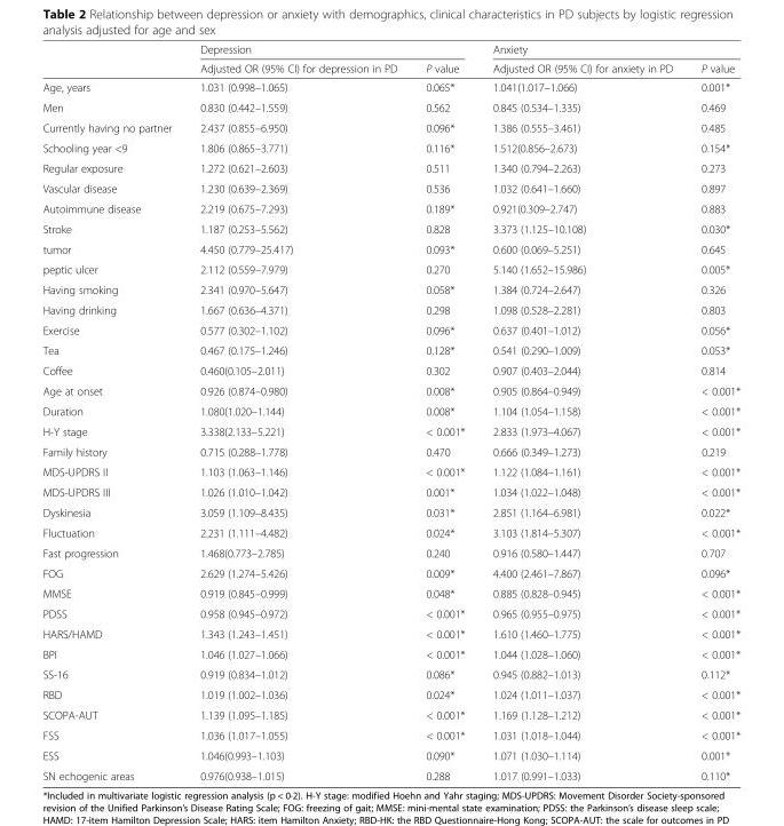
<table><thead><tr><td rowspan="2"></td><td colspan="2">Depression</td><td colspan="2">Anxiety</td></tr><tr><td>Adjusted OR (95% CI) for depression in PD</td><td>P value</td><td>Adjusted OR (95% CI) for anxiety in PD</td><td>P value</td></tr></thead><tbody><tr><td>Age, years</td><td>1.031 (0.998–1.065)</td><td>0.065*</td><td>1.041(1.017–1.066)</td><td>0.001*</td></tr><tr><td>Men</td><td>0.830 (0.442–1.559)</td><td>0.562</td><td>0.845 (0.534–1.335)</td><td>0.469</td></tr><tr><td>Currently having no partner</td><td>2.437 (0.855–6.950)</td><td>0.096*</td><td>1.386 (0.555–3.461)</td><td>0.485</td></tr><tr><td>Schooling year &lt;9</td><td>1.806 (0.865–3.771)</td><td>0.116*</td><td>1.512(0.856–2.673)</td><td>0.154*</td></tr><tr><td>Regular exposure</td><td>1.272 (0.621–2.603)</td><td>0.511</td><td>1.340 (0.794–2.263)</td><td>0.273</td></tr><tr><td>Vascular disease</td><td>1.230 (0.639–2.369)</td><td>0.536</td><td>1.032 (0.641–1.660)</td><td>0.897</td></tr><tr><td>Autoimmune disease</td><td>2.219 (0.675–7.293)</td><td>0.189*</td><td>0.921(0.309–2.747)</td><td>0.883</td></tr><tr><td>Stroke</td><td>1.187 (0.253–5.562)</td><td>0.828</td><td>3.373 (1.125–10.108)</td><td>0.030*</td></tr><tr><td>tumor</td><td>4.450 (0.779–25.417)</td><td>0.093*</td><td>0.600 (0.069–5.251)</td><td>0.645</td></tr><tr><td>peptic ulcer</td><td>2.112 (0.559–7.979)</td><td>0.270</td><td>5.140 (1.652–15.986)</td><td>0.005*</td></tr><tr><td>Having smoking</td><td>2.341 (0.970–5.647)</td><td>0.058*</td><td>1.384 (0.724–2.647)</td><td>0.326</td></tr><tr><td>Having drinking</td><td>1.667 (0.636–4.371)</td><td>0.298</td><td>1.098 (0.528–2.281)</td><td>0.803</td></tr><tr><td>Exercise</td><td>0.577 (0.302–1.102)</td><td>0.096*</td><td>0.637 (0.401–1.012)</td><td>0.056*</td></tr><tr><td>Tea</td><td>0.467 (0.175–1.246)</td><td>0.128*</td><td>0.541 (0.290–1.009)</td><td>0.053*</td></tr><tr><td>Coffee</td><td>0.460(0.105–2.011)</td><td>0.302</td><td>0.907 (0.403–2.044)</td><td>0.814</td></tr><tr><td>Age at onset</td><td>0.926 (0.874–0.980)</td><td>0.008*</td><td>0.905 (0.864–0.949)</td><td>&lt; 0.001*</td></tr><tr><td>Duration</td><td>1.080(1.020–1.144)</td><td>0.008*</td><td>1.104 (1.054–1.158)</td><td>&lt; 0.001*</td></tr><tr><td>H-Y stage</td><td>3.338(2.133–5.221)</td><td>&lt; 0.001*</td><td>2.833 (1.973–4.067)</td><td>&lt; 0.001*</td></tr><tr><td>Family history</td><td>0.715 (0.288–1.778)</td><td>0.470</td><td>0.666 (0.349–1.273)</td><td>0.219</td></tr><tr><td>MDS-UPDRS II</td><td>1.103 (1.063–1.146)</td><td>&lt; 0.001*</td><td>1.122 (1.084–1.161)</td><td>&lt; 0.001*</td></tr><tr><td>MDS-UPDRS III</td><td>1.026 (1.010–1.042)</td><td>0.001*</td><td>1.034 (1.022–1.048)</td><td>&lt; 0.001*</td></tr><tr><td>Dyskinesia</td><td>3.059 (1.109–8.435)</td><td>0.031*</td><td>2.851 (1.164–6.981)</td><td>0.022*</td></tr><tr><td>Fluctuation</td><td>2.231 (1.111–4.482)</td><td>0.024*</td><td>3.103 (1.814–5.307)</td><td>&lt; 0.001*</td></tr><tr><td>Fast progression</td><td>1.468(0.773–2.785)</td><td>0.240</td><td>0.916 (0.580–1.447)</td><td>0.707</td></tr><tr><td>FOG</td><td>2.629 (1.274–5.426)</td><td>0.009*</td><td>4.400 (2.461–7.867)</td><td>0.096*</td></tr><tr><td>MMSE</td><td>0.919 (0.845–0.999)</td><td>0.048*</td><td>0.885 (0.828–0.945)</td><td>&lt; 0.001*</td></tr><tr><td>PDSS</td><td>0.958 (0.945–0.972)</td><td>&lt; 0.001*</td><td>0.965 (0.955–0.975)</td><td>&lt; 0.001*</td></tr><tr><td>HARS/HAMD</td><td>1.343 (1.243–1.451)</td><td>&lt; 0.001*</td><td>1.610 (1.460–1.775)</td><td>&lt; 0.001*</td></tr><tr><td>BPI</td><td>1.046 (1.027–1.066)</td><td>&lt; 0.001*</td><td>1.044 (1.028–1.060)</td><td>&lt; 0.001*</td></tr><tr><td>SS-16</td><td>0.919 (0.834–1.012)</td><td>0.086*</td><td>0.945 (0.882–1.013)</td><td>0.112*</td></tr><tr><td>RBD</td><td>1.019 (1.002–1.036)</td><td>0.024*</td><td>1.024 (1.011–1.037)</td><td>&lt; 0.001*</td></tr><tr><td>SCOPA-AUT</td><td>1.139 (1.095–1.185)</td><td>&lt; 0.001*</td><td>1.169 (1.128–1.212)</td><td>&lt; 0.001*</td></tr><tr><td>FSS</td><td>1.036 (1.017–1.055)</td><td>&lt; 0.001*</td><td>1.031 (1.018–1.044)</td><td>&lt; 0.001*</td></tr><tr><td>ESS</td><td>1.046(0.993–1.103)</td><td>0.090*</td><td>1.071 (1.030–1.114)</td><td>0.001*</td></tr><tr><td>SN echogenic areas</td><td>0.976(0.938–1.015)</td><td>0.288</td><td>1.017 (0.991–1.033)</td><td>0.110*</td></tr></tbody></table>